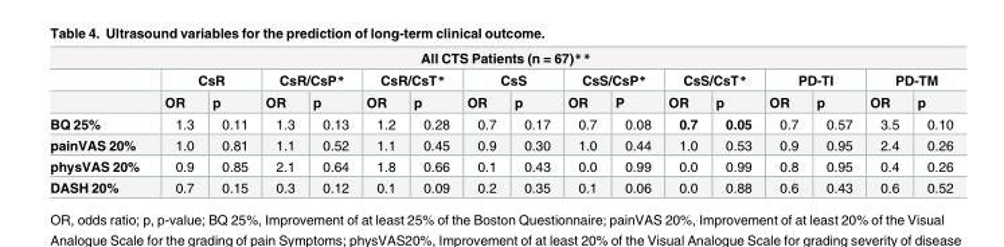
<table><thead><tr><td colspan="17">All CTS Patients (n = 67)**</td></tr><tr><td rowspan="2"></td><td colspan="2">CsR</td><td colspan="2">CsR/CsP*</td><td colspan="2">CsR/CsT*</td><td colspan="2">CsS</td><td colspan="2">CsS/CsP*</td><td colspan="2">CsS/CsT*</td><td colspan="2">PD-TI</td><td colspan="2">PD-TM</td></tr><tr><td>OR</td><td>p</td><td>OR</td><td>p</td><td>OR</td><td>p</td><td>OR</td><td>p</td><td>OR</td><td>P</td><td>OR</td><td>p</td><td>OR</td><td>p</td><td>OR</td><td>p</td></tr></thead><tbody><tr><td>BQ 25%</td><td>1.3</td><td>0.11</td><td>1.3</td><td>0.13</td><td>1.2</td><td>0.28</td><td>0.7</td><td>0.17</td><td>0.7</td><td>0.08</td><td>0.7</td><td>0.05</td><td>0.7</td><td>0.57</td><td>3.5</td><td>0.10</td></tr><tr><td>painVAS 20%</td><td>1.0</td><td>0.81</td><td>1.1</td><td>0.52</td><td>1.1</td><td>0.45</td><td>0.9</td><td>0.30</td><td>1.0</td><td>0.44</td><td>1.0</td><td>0.53</td><td>0.9</td><td>0.95</td><td>2.4</td><td>0.26</td></tr><tr><td>physVAS 20%</td><td>0.9</td><td>0.85</td><td>2.1</td><td>0.64</td><td>1.8</td><td>0.66</td><td>0.1</td><td>0.43</td><td>0.0</td><td>0.99</td><td>0.0</td><td>0.99</td><td>0.8</td><td>0.95</td><td>0.4</td><td>0.26</td></tr><tr><td>DASH 20%</td><td>0.7</td><td>0.15</td><td>0.3</td><td>0.12</td><td>0.1</td><td>0.09</td><td>0.2</td><td>0.35</td><td>0.1</td><td>0.06</td><td>0.0</td><td>0.88</td><td>0.6</td><td>0.43</td><td>0.6</td><td>0.52</td></tr></tbody></table>